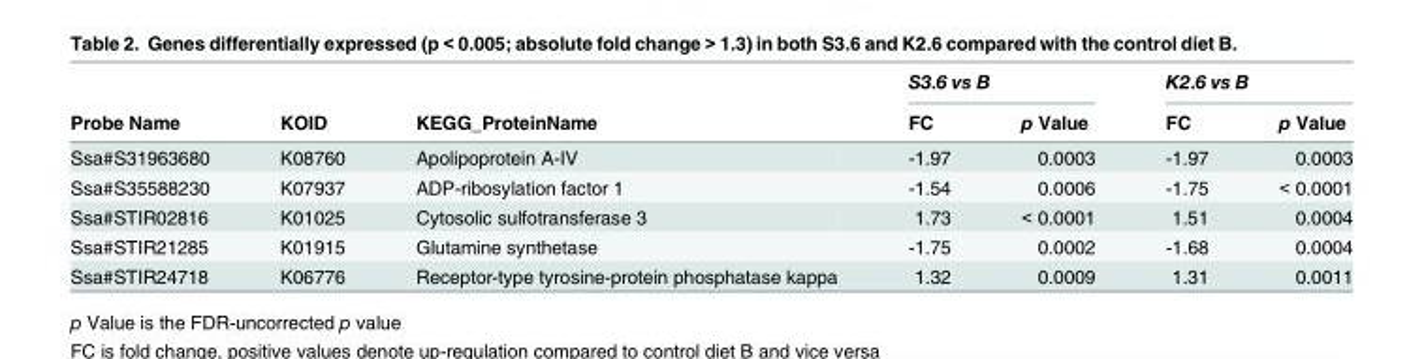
<table><thead><tr><td rowspan="2">Probe Name</td><td rowspan="2">KOID</td><td rowspan="2">KEGG_ProteinName</td><td colspan="2">S3.6 vs B</td><td colspan="2">K2.6 vs B</td></tr><tr><td>FC</td><td>p Value</td><td>FC</td><td>p Value</td></tr></thead><tbody><tr><td>Ssa#S31963680</td><td>K08760</td><td>Apolipoprotein A-IV</td><td>-1.97</td><td>0.0003</td><td>-1.97</td><td>0.0003</td></tr><tr><td>Ssa#S35588230</td><td>K07937</td><td>ADP-ribosylation factor 1</td><td>-1.54</td><td>0.0006</td><td>-1.75</td><td>&lt; 0.0001</td></tr><tr><td>Ssa#STIR02816</td><td>K01025</td><td>Cytosolic sulfotransferase 3</td><td>1.73</td><td>&lt; 0.0001</td><td>1.51</td><td>0.0004</td></tr><tr><td>Ssa#STIR21285</td><td>K01915</td><td>Glutamine synthetase</td><td>-1.75</td><td>0.0002</td><td>-1.68</td><td>0.0004</td></tr><tr><td>Ssa#STIR24718</td><td>K06776</td><td>Receptor-type tyrosine-protein phosphatase kappa</td><td>1.32</td><td>0.0009</td><td>1.31</td><td>0.0011</td></tr></tbody></table>